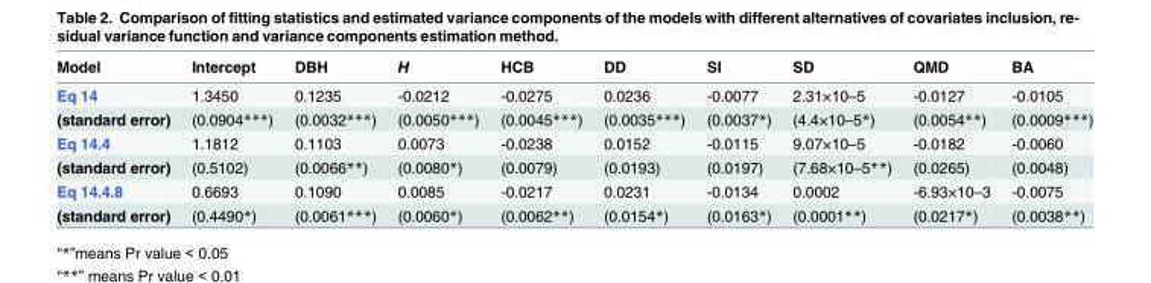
<table><thead><tr><td>Model</td><td>Intercept</td><td>DBH</td><td>H</td><td>HCB</td><td>DD</td><td>SI</td><td>SD</td><td>QMD</td><td>BA</td></tr></thead><tbody><tr><td>Eq 14</td><td>1.3450</td><td>0.1235</td><td>-0.0212</td><td>-0.0275</td><td>0.0236</td><td>-0.0077</td><td>2.31×10–5</td><td>-0.0127</td><td>-0.0105</td></tr><tr><td>(standard error)</td><td>(0.0904***)</td><td>(0.0032***)</td><td>(0.0050***)</td><td>(0.0045***)</td><td>(0.0035***)</td><td>(0.0037*)</td><td>(4.4×10–5*)</td><td>(0.0054**)</td><td>(0.0009***)</td></tr><tr><td>Eq 14.4</td><td>1.1812</td><td>0.1103</td><td>0.0073</td><td>-0.0238</td><td>0.0152</td><td>-0.0115</td><td>9.07×10–5</td><td>-0.0182</td><td>-0.0060</td></tr><tr><td>(standard error)</td><td>(0.5102)</td><td>(0.0066**)</td><td>(0.0080*)</td><td>(0.0079)</td><td>(0.0193)</td><td>(0.0197)</td><td>(7.68×10–5**)</td><td>(0.0265)</td><td>(0.0048)</td></tr><tr><td>Eq 14.4.8</td><td>0.6693</td><td>0.1090</td><td>0.0085</td><td>-0.0217</td><td>0.0231</td><td>-0.0134</td><td>0.0002</td><td>-6.93×10–3</td><td>-0.0075</td></tr><tr><td>(standard error)</td><td>(0.4490*)</td><td>(0.0061***)</td><td>(0.0060*)</td><td>(0.0062**)</td><td>(0.0154*)</td><td>(0.0163*)</td><td>(0.0001**)</td><td>(0.0217*)</td><td>(0.0038**)</td></tr></tbody></table>